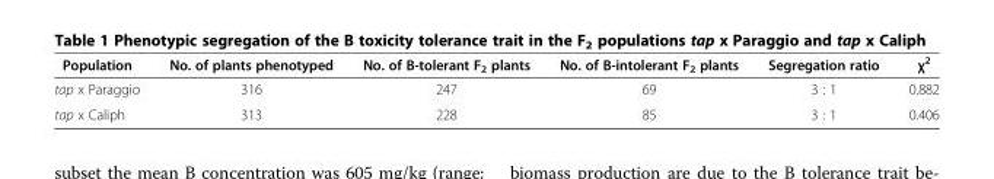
<table><thead><tr><td>Population</td><td>No. of plants phenotyped</td><td>No. of B-tolerant F<sub>2</sub> plants</td><td>No. of B-intolerant F<sub>2</sub> plants</td><td>Segregation ratio</td><td>χ<sup>2</sup></td></tr></thead><tbody><tr><td>tap x Paraggio</td><td>316</td><td>247</td><td>69</td><td>3 : 1</td><td>0.882</td></tr><tr><td>tap x Caliph</td><td>313</td><td>228</td><td>85</td><td>3 : 1</td><td>0.406</td></tr></tbody></table>